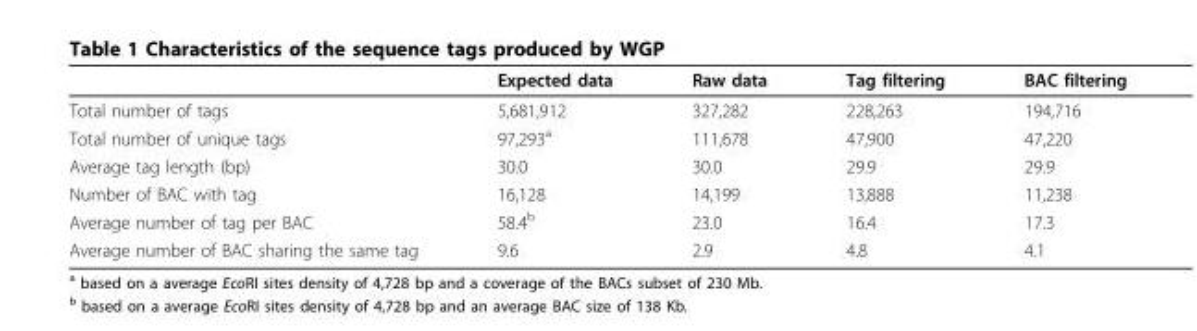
<table><thead><tr><td></td><td>Expected data</td><td>Raw data</td><td>Tag filtering</td><td>BAC filtering</td></tr></thead><tbody><tr><td>Total number of tags</td><td>5,681,912</td><td>327,282</td><td>228,263</td><td>194,716</td></tr><tr><td>Total number of unique tags</td><td>97,293<sup>a</sup></td><td>111,678</td><td>47,900</td><td>47,220</td></tr><tr><td>Average tag length (bp)</td><td>30.0</td><td>30.0</td><td>29.9</td><td>29.9</td></tr><tr><td>Number of BAC with tag</td><td>16,128</td><td>14,199</td><td>13,888</td><td>11,238</td></tr><tr><td>Average number of tag per BAC</td><td>58.4<sup>b</sup></td><td>23.0</td><td>16.4</td><td>17.3</td></tr><tr><td>Average number of BAC sharing the same tag</td><td>9.6</td><td>2.9</td><td>4.8</td><td>4.1</td></tr></tbody></table>